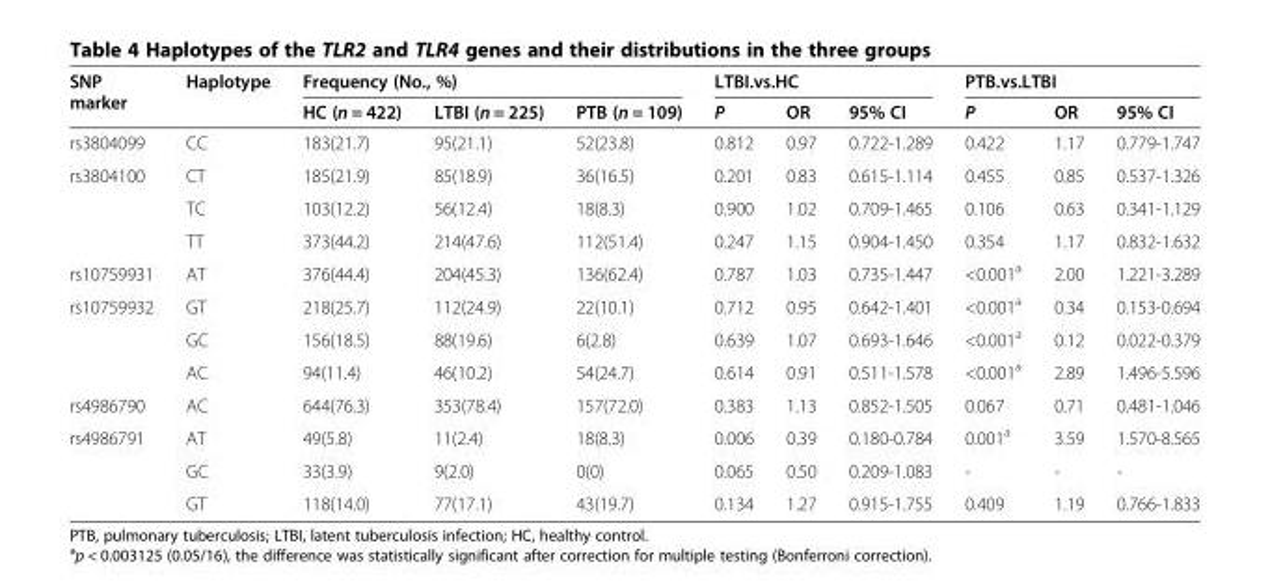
<table><thead><tr><td rowspan="2">SNP marker</td><td rowspan="2">Haplotype</td><td colspan="3">Frequency (No., %)</td><td colspan="3">LTBI.vs.HC</td><td colspan="3">PTB.vs.LTBI</td></tr><tr><td>HC (n = 422)</td><td>LTBI (n = 225)</td><td>PTB (n = 109)</td><td>P</td><td>OR</td><td>95% CI</td><td>P</td><td>OR</td><td>95% CI</td></tr></thead><tbody><tr><td>rs3804099</td><td>CC</td><td>183(21.7)</td><td>95(21.1)</td><td>52(23.8)</td><td>0.812</td><td>0.97</td><td>0.722-1.289</td><td>0.422</td><td>1.17</td><td>0.779-1.747</td></tr><tr><td rowspan="3">rs3804100</td><td>CT</td><td>185(21.9)</td><td>85(18.9)</td><td>36(16.5)</td><td>0.201</td><td>0.83</td><td>0.615-1.114</td><td>0.455</td><td>0.85</td><td>0.537-1.326</td></tr><tr><td>TC</td><td>103(12.2)</td><td>56(12.4)</td><td>18(8.3)</td><td>0.900</td><td>1.02</td><td>0.709-1.465</td><td>0.106</td><td>0.63</td><td>0.341-1.129</td></tr><tr><td>TT</td><td>373(44.2)</td><td>214(47.6)</td><td>112(51.4)</td><td>0.247</td><td>1.15</td><td>0.904-1.450</td><td>0.354</td><td>1.17</td><td>0.832-1.632</td></tr><tr><td>rs10759931</td><td>AT</td><td>376(44.4)</td><td>204(45.3)</td><td>136(62.4)</td><td>0.787</td><td>1.03</td><td>0.735-1.447</td><td>&lt;0.001<sup>a</sup></td><td>2.00</td><td>1.221-3.289</td></tr><tr><td rowspan="3">rs10759932</td><td>GT</td><td>218(25.7)</td><td>112(24.9)</td><td>22(10.1)</td><td>0.712</td><td>0.95</td><td>0.642-1.401</td><td>&lt;0.001<sup>a</sup></td><td>0.34</td><td>0.153-0.694</td></tr><tr><td>GC</td><td>156(18.5)</td><td>88(19.6)</td><td>6(2.8)</td><td>0.639</td><td>1.07</td><td>0.693-1.646</td><td>&lt;0.001<sup>a</sup></td><td>0.12</td><td>0.022-0.379</td></tr><tr><td>AC</td><td>94(11.4)</td><td>46(10.2)</td><td>54(24.7)</td><td>0.614</td><td>0.91</td><td>0.511-1.578</td><td>&lt;0.001<sup>a</sup></td><td>2.89</td><td>1.496-5.596</td></tr><tr><td>rs4986790</td><td>AC</td><td>644(76.3)</td><td>353(78.4)</td><td>157(72.0)</td><td>0.383</td><td>1.13</td><td>0.852-1.505</td><td>0.067</td><td>0.71</td><td>0.481-1.046</td></tr><tr><td rowspan="3">rs4986791</td><td>AT</td><td>49(5.8)</td><td>11(2.4)</td><td>18(8.3)</td><td>0.006</td><td>0.39</td><td>0.180-0.784</td><td>0.001<sup>a</sup></td><td>3.59</td><td>1.570-8.565</td></tr><tr><td>GC</td><td>33(3.9)</td><td>9(2.0)</td><td>0(0)</td><td>0.065</td><td>0.50</td><td>0.209-1.083</td><td>-</td><td>-</td><td>-</td></tr><tr><td>GT</td><td>118(14.0)</td><td>77(17.1)</td><td>43(19.7)</td><td>0.134</td><td>1.27</td><td>0.915-1.755</td><td>0.409</td><td>1.19</td><td>0.766-1.833</td></tr></tbody></table>